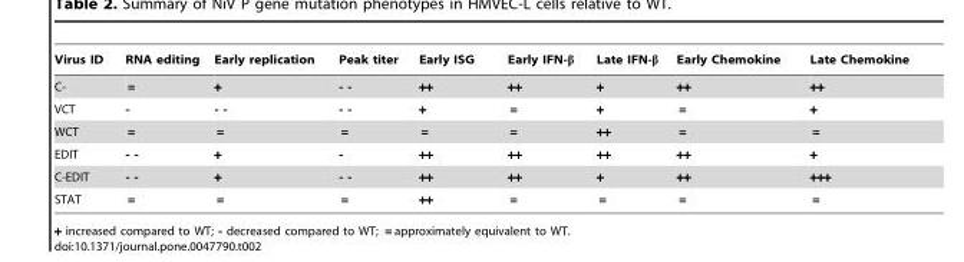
<table><thead><tr><td>Virus ID</td><td>RNA editing</td><td>Early replication</td><td>Peak titer</td><td>Early ISG</td><td>Early IFN-β</td><td>Late IFN-β</td><td>Early Chemokine</td><td>Late Chemokine</td></tr></thead><tbody><tr><td>C-</td><td>=</td><td>+</td><td>- -</td><td>++</td><td>++</td><td>+</td><td>++</td><td>++</td></tr><tr><td>VCT</td><td>-</td><td>- -</td><td>- -</td><td>+</td><td>=</td><td>+</td><td>=</td><td>+</td></tr><tr><td>WCT</td><td>=</td><td>=</td><td>=</td><td>=</td><td>=</td><td>++</td><td>=</td><td>=</td></tr><tr><td>EDIT</td><td>- -</td><td>+</td><td>-</td><td>++</td><td>++</td><td>++</td><td>++</td><td>+</td></tr><tr><td>C-EDIT</td><td>- -</td><td>+</td><td>- -</td><td>++</td><td>++</td><td>+</td><td>++</td><td>+++</td></tr><tr><td>STAT</td><td>=</td><td>=</td><td>=</td><td>++</td><td>=</td><td>=</td><td>=</td><td>=</td></tr></tbody></table>